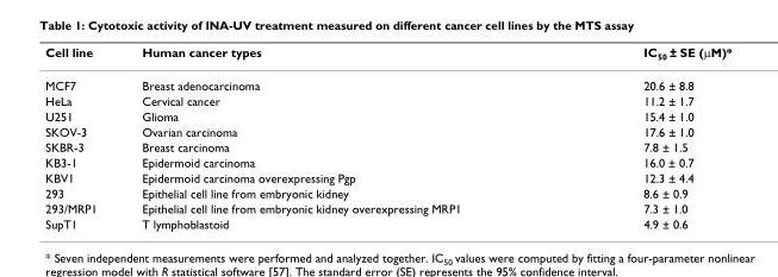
<table><thead><tr><td>Cell line</td><td>Human cancer types</td><td>IC<sub>50</sub> ± SE (μM)*</td></tr></thead><tbody><tr><td>MCF7</td><td>Breast adenocarcinoma</td><td>20.6 ± 8.8</td></tr><tr><td>HeLa</td><td>Cervical cancer</td><td>11.2 ± 1.7</td></tr><tr><td>U251</td><td>Glioma</td><td>15.4 ± 1.0</td></tr><tr><td>SKOV-3</td><td>Ovarian carcinoma</td><td>17.6 ± 1.0</td></tr><tr><td>SKBR-3</td><td>Breast carcinoma</td><td>7.8 ± 1.5</td></tr><tr><td>KB3-1</td><td>Epidermoid carcinoma</td><td>16.0 ± 0.7</td></tr><tr><td>KBV1</td><td>Epidermoid carcinoma overexpressing Pgp</td><td>12.3 ± 4.4</td></tr><tr><td>293</td><td>Epithelial cell line from embryonic kidney</td><td>8.6 ± 0.9</td></tr><tr><td>293/MRP1</td><td>Epithelial cell line from embryonic kidney overexpressing MRP1</td><td>7.3 ± 1.0</td></tr><tr><td>SupT1</td><td>T lymphoblastoid</td><td>4.9 ± 0.6</td></tr></tbody></table>